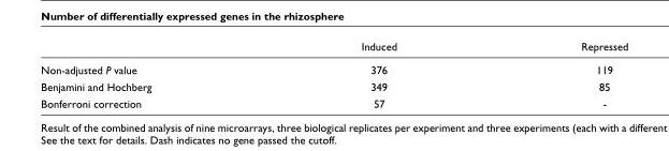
<table><thead><tr><td></td><td>Induced</td><td>Repressed</td></tr></thead><tbody><tr><td>Non-adjusted P value</td><td>376</td><td>119</td></tr><tr><td>Benjamini and Hochberg</td><td>349</td><td>85</td></tr><tr><td>Bonferroni correction</td><td>57</td><td>-</td></tr></tbody></table>